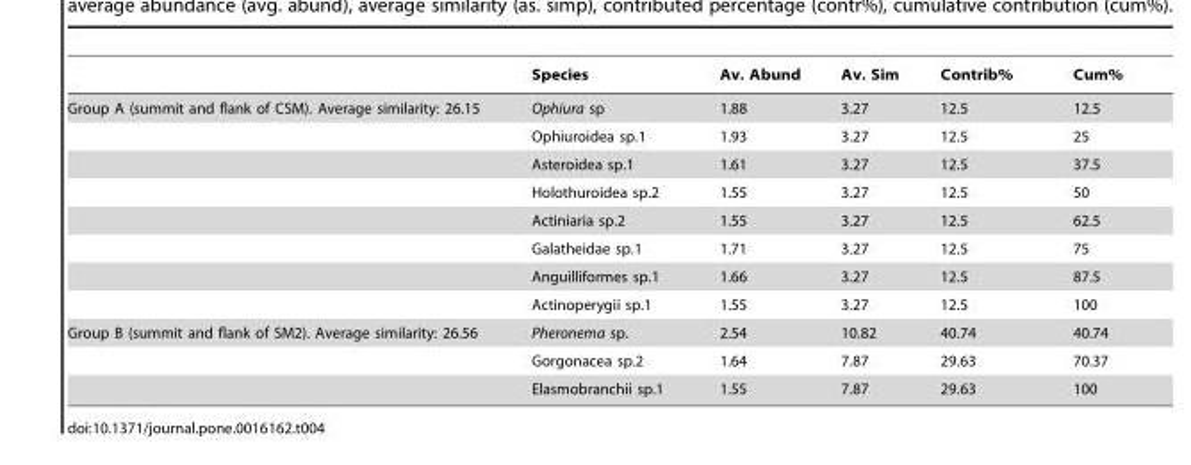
<table><thead><tr><td></td><td>Species</td><td>Av. Abund</td><td>Av. Sim</td><td>Contrib%</td><td>Cum%</td></tr></thead><tbody><tr><td rowspan="8">Group A (summit and flank of CSM). Average similarity: 26.15</td><td>Ophiura sp</td><td>1.88</td><td>3.27</td><td>12.5</td><td>12.5</td></tr><tr><td>Ophiuroidea sp.1</td><td>1.93</td><td>3.27</td><td>12.5</td><td>25</td></tr><tr><td>Asteroidea sp.1</td><td>1.61</td><td>3.27</td><td>12.5</td><td>37.5</td></tr><tr><td>Holothuroidea sp.2</td><td>1.55</td><td>3.27</td><td>12.5</td><td>50</td></tr><tr><td>Actiniaria sp.2</td><td>1.55</td><td>3.27</td><td>12.5</td><td>62.5</td></tr><tr><td>Galatheidae sp.1</td><td>1.71</td><td>3.27</td><td>12.5</td><td>75</td></tr><tr><td>Anguilliformes sp.1</td><td>1.66</td><td>3.27</td><td>12.5</td><td>87.5</td></tr><tr><td>Actinoperygii sp.1</td><td>1.55</td><td>3.27</td><td>12.5</td><td>100</td></tr><tr><td rowspan="3">Group B (summit and flank of SM2). Average similarity: 26.56</td><td>Pheronema sp.</td><td>2.54</td><td>10.82</td><td>40.74</td><td>40.74</td></tr><tr><td>Gorgonacea sp.2</td><td>1.64</td><td>7.87</td><td>29.63</td><td>70.37</td></tr><tr><td>Elasmobranchii sp.1</td><td>1.55</td><td>7.87</td><td>29.63</td><td>100</td></tr></tbody></table>